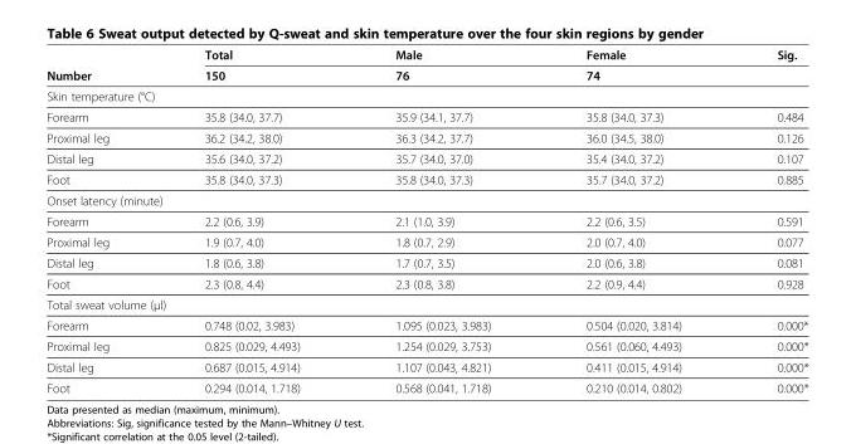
<table><thead><tr><td rowspan="2">Number</td><td rowspan="2">Total 150</td><td rowspan="2">Male 76</td><td rowspan="2">Female 74</td><td rowspan="2">Sig.</td></tr><tr></tr></thead><tbody><tr><td colspan="5">Skin temperature (°C)</td></tr><tr><td>Forearm</td><td>35.8 (34.0, 37.7)</td><td>35.9 (34.1, 37.7)</td><td>35.8 (34.0, 37.3)</td><td>0.484</td></tr><tr><td>Proximal leg</td><td>36.2 (34.2, 38.0)</td><td>36.3 (34.2, 37.7)</td><td>36.0 (34.5, 38.0)</td><td>0.126</td></tr><tr><td>Distal leg</td><td>35.6 (34.0, 37.2)</td><td>35.7 (34.0, 37.0)</td><td>35.4 (34.0, 37.2)</td><td>0.107</td></tr><tr><td>Foot</td><td>35.8 (34.0, 37.3)</td><td>35.8 (34.0, 37.3)</td><td>35.7 (34.0, 37.2)</td><td>0.885</td></tr><tr><td colspan="5">Onset latency (minute)</td></tr><tr><td>Forearm</td><td>2.2 (0.6, 3.9)</td><td>2.1 (1.0, 3.9)</td><td>2.2 (0.6, 3.5)</td><td>0.591</td></tr><tr><td>Proximal leg</td><td>1.9 (0.7, 4.0)</td><td>1.8 (0.7, 2.9)</td><td>2.0 (0.7, 4.0)</td><td>0.077</td></tr><tr><td>Distal leg</td><td>1.8 (0.6, 3.8)</td><td>1.7 (0.7, 3.5)</td><td>2.0 (0.6, 3.8)</td><td>0.081</td></tr><tr><td>Foot</td><td>2.3 (0.8, 4.4)</td><td>2.3 (0.8, 3.8)</td><td>2.2 (0.9, 4.4)</td><td>0.928</td></tr><tr><td colspan="5">Total sweat volume (μl)</td></tr><tr><td>Forearm</td><td>0.748 (0.02, 3.983)</td><td>1.095 (0.023, 3.983)</td><td>0.504 (0.020, 3.814)</td><td>0.000*</td></tr><tr><td>Proximal leg</td><td>0.825 (0.029, 4.493)</td><td>1.254 (0.029, 3.753)</td><td>0.561 (0.060, 4.493)</td><td>0.000*</td></tr><tr><td>Distal leg</td><td>0.687 (0.015, 4.914)</td><td>1.107 (0.043, 4.821)</td><td>0.411 (0.015, 4.914)</td><td>0.000*</td></tr><tr><td>Foot</td><td>0.294 (0.014, 1.718)</td><td>0.568 (0.041, 1.718)</td><td>0.210 (0.014, 0.802)</td><td>0.000*</td></tr></tbody></table>